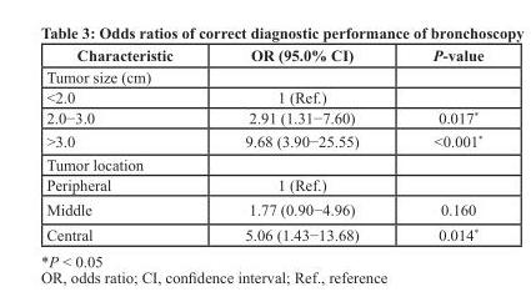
<table><thead><tr><td>Characteristic</td><td>OR (95.0% CI)</td><td>P-value</td></tr></thead><tbody><tr><td colspan="3">Tumor size (cm)</td></tr><tr><td>&lt;2.0</td><td>1 (Ref.)</td><td></td></tr><tr><td>2.0−3.0</td><td>2.91 (1.31−7.60)</td><td>0.017*</td></tr><tr><td>&gt;3.0</td><td>9.68 (3.90−25.55)</td><td>&lt;0.001*</td></tr><tr><td colspan="3">Tumor location</td></tr><tr><td>Peripheral</td><td>1 (Ref.)</td><td></td></tr><tr><td>Middle</td><td>1.77 (0.90−4.96)</td><td>0.160</td></tr><tr><td>Central</td><td>5.06 (1.43−13.68)</td><td>0.014*</td></tr></tbody></table>